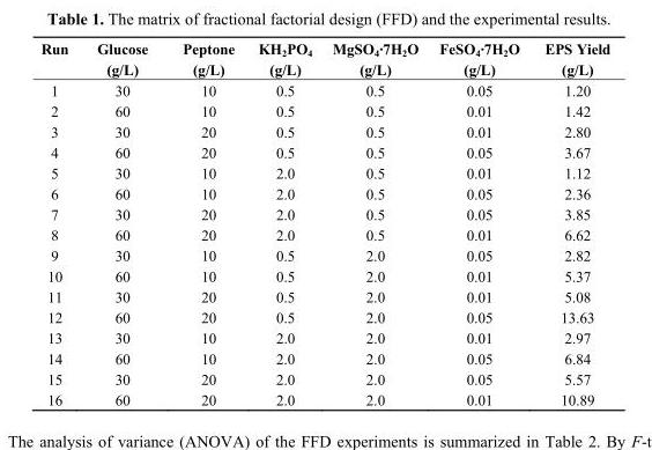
<table><thead><tr><td>Run</td><td>Glucose (g/L)</td><td>Peptone (g/L)</td><td>KH<sub>2</sub>PO<sub>4</sub> (g/L)</td><td>MgSO<sub>4</sub>·7H<sub>2</sub>O (g/L)</td><td>FeSO<sub>4</sub>·7H<sub>2</sub>O (g/L)</td><td>EPS Yield (g/L)</td></tr></thead><tbody><tr><td>1</td><td>30</td><td>10</td><td>0.5</td><td>0.5</td><td>0.05</td><td>1.20</td></tr><tr><td>2</td><td>60</td><td>10</td><td>0.5</td><td>0.5</td><td>0.01</td><td>1.42</td></tr><tr><td>3</td><td>30</td><td>20</td><td>0.5</td><td>0.5</td><td>0.01</td><td>2.80</td></tr><tr><td>4</td><td>60</td><td>20</td><td>0.5</td><td>0.5</td><td>0.05</td><td>3.67</td></tr><tr><td>5</td><td>30</td><td>10</td><td>2.0</td><td>0.5</td><td>0.01</td><td>1.12</td></tr><tr><td>6</td><td>60</td><td>10</td><td>2.0</td><td>0.5</td><td>0.05</td><td>2.36</td></tr><tr><td>7</td><td>30</td><td>20</td><td>2.0</td><td>0.5</td><td>0.05</td><td>3.85</td></tr><tr><td>8</td><td>60</td><td>20</td><td>2.0</td><td>0.5</td><td>0.01</td><td>6.62</td></tr><tr><td>9</td><td>30</td><td>10</td><td>0.5</td><td>2.0</td><td>0.05</td><td>2.82</td></tr><tr><td>10</td><td>60</td><td>10</td><td>0.5</td><td>2.0</td><td>0.01</td><td>5.37</td></tr><tr><td>11</td><td>30</td><td>20</td><td>0.5</td><td>2.0</td><td>0.01</td><td>5.08</td></tr><tr><td>12</td><td>60</td><td>20</td><td>0.5</td><td>2.0</td><td>0.05</td><td>13.63</td></tr><tr><td>13</td><td>30</td><td>10</td><td>2.0</td><td>2.0</td><td>0.01</td><td>2.97</td></tr><tr><td>14</td><td>60</td><td>10</td><td>2.0</td><td>2.0</td><td>0.05</td><td>6.84</td></tr><tr><td>15</td><td>30</td><td>20</td><td>2.0</td><td>2.0</td><td>0.05</td><td>5.57</td></tr><tr><td>16</td><td>60</td><td>20</td><td>2.0</td><td>2.0</td><td>0.01</td><td>10.89</td></tr></tbody></table>